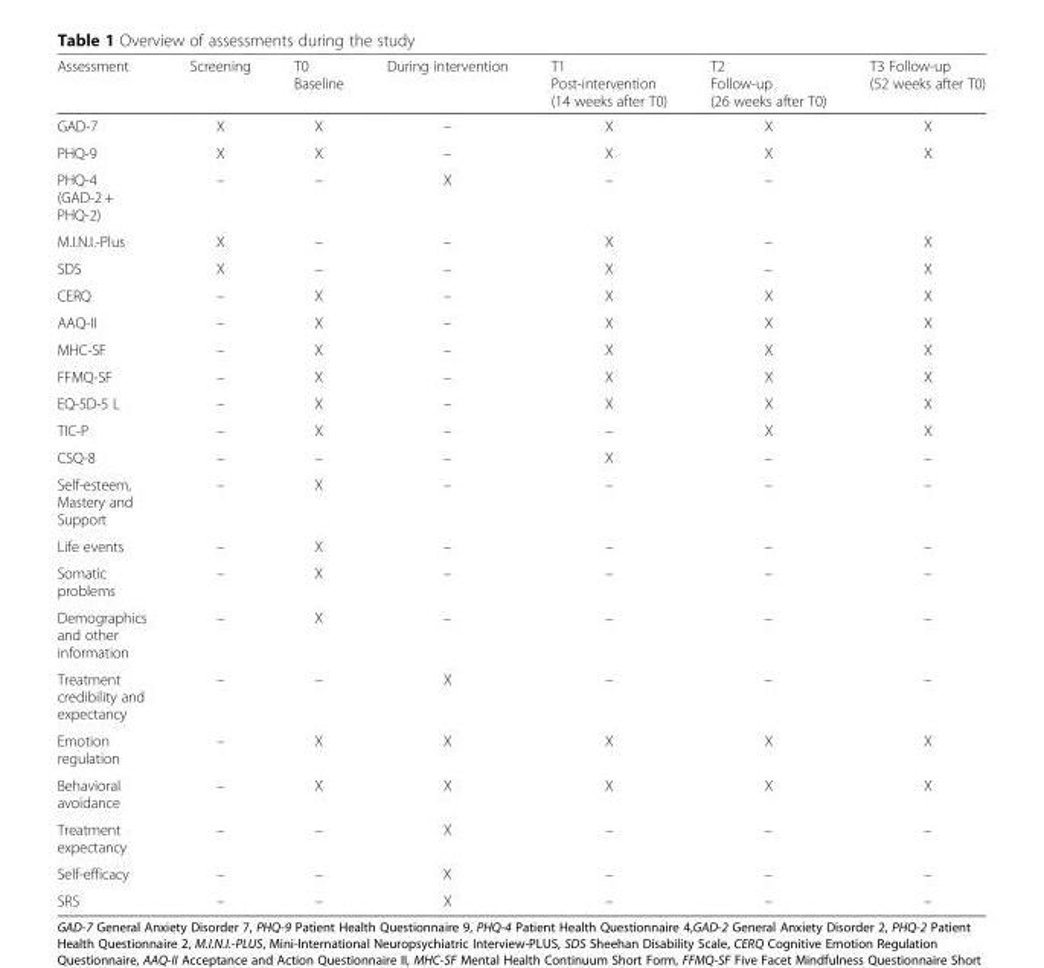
<table><thead><tr><td>Assessment</td><td>Screening</td><td>T0 Baseline</td><td>During intervention</td><td>T1 Post-intervention (14 weeks after T0)</td><td>T2 Follow-up (26 weeks after T0)</td><td>T3 Follow-up (52 weeks after T0)</td></tr></thead><tbody><tr><td>GAD-7</td><td>X</td><td>X</td><td>–</td><td>X</td><td>X</td><td>X</td></tr><tr><td>PHQ-9</td><td>X</td><td>X</td><td>–</td><td>X</td><td>X</td><td>X</td></tr><tr><td>PHQ-4 (GAD-2 + PHQ-2)</td><td>–</td><td>–</td><td>X</td><td>–</td><td>–</td><td></td></tr><tr><td>M.I.N.I.-Plus</td><td>X</td><td>–</td><td>–</td><td>X</td><td>–</td><td>X</td></tr><tr><td>SDS</td><td>X</td><td>–</td><td>–</td><td>X</td><td>–</td><td>X</td></tr><tr><td>CERQ</td><td>–</td><td>X</td><td>–</td><td>X</td><td>X</td><td>X</td></tr><tr><td>AAQ-II</td><td>–</td><td>X</td><td>–</td><td>X</td><td>X</td><td>X</td></tr><tr><td>MHC-SF</td><td>–</td><td>X</td><td>–</td><td>X</td><td>X</td><td>X</td></tr><tr><td>FFMQ-SF</td><td>–</td><td>X</td><td>–</td><td>X</td><td>X</td><td>X</td></tr><tr><td>EQ-5D-5 L</td><td>–</td><td>X</td><td>–</td><td>X</td><td>X</td><td>X</td></tr><tr><td>TIC-P</td><td>–</td><td>X</td><td>–</td><td>–</td><td>X</td><td>X</td></tr><tr><td>CSQ-8</td><td>–</td><td>–</td><td>–</td><td>X</td><td>–</td><td>–</td></tr><tr><td>Self-esteem, Mastery and Support</td><td>–</td><td>X</td><td>–</td><td>–</td><td>–</td><td>–</td></tr><tr><td>Life events</td><td>–</td><td>X</td><td>–</td><td>–</td><td>–</td><td>–</td></tr><tr><td>Somatic problems</td><td>–</td><td>X</td><td>–</td><td>–</td><td>–</td><td>–</td></tr><tr><td>Demographics and other information</td><td>–</td><td>X</td><td>–</td><td>–</td><td>–</td><td>–</td></tr><tr><td>Treatment credibility and expectancy</td><td>–</td><td>–</td><td>X</td><td>–</td><td>–</td><td>–</td></tr><tr><td>Emotion regulation</td><td>–</td><td>X</td><td>X</td><td>X</td><td>X</td><td>X</td></tr><tr><td>Behavioral avoidance</td><td>–</td><td>X</td><td>X</td><td>X</td><td>X</td><td>X</td></tr><tr><td>Treatment expectancy</td><td>–</td><td>–</td><td>X</td><td>–</td><td>–</td><td>–</td></tr><tr><td>Self-efficacy</td><td>–</td><td>–</td><td>X</td><td>–</td><td>–</td><td>–</td></tr><tr><td>SRS</td><td>–</td><td>–</td><td>X</td><td>–</td><td>–</td><td>–</td></tr></tbody></table>